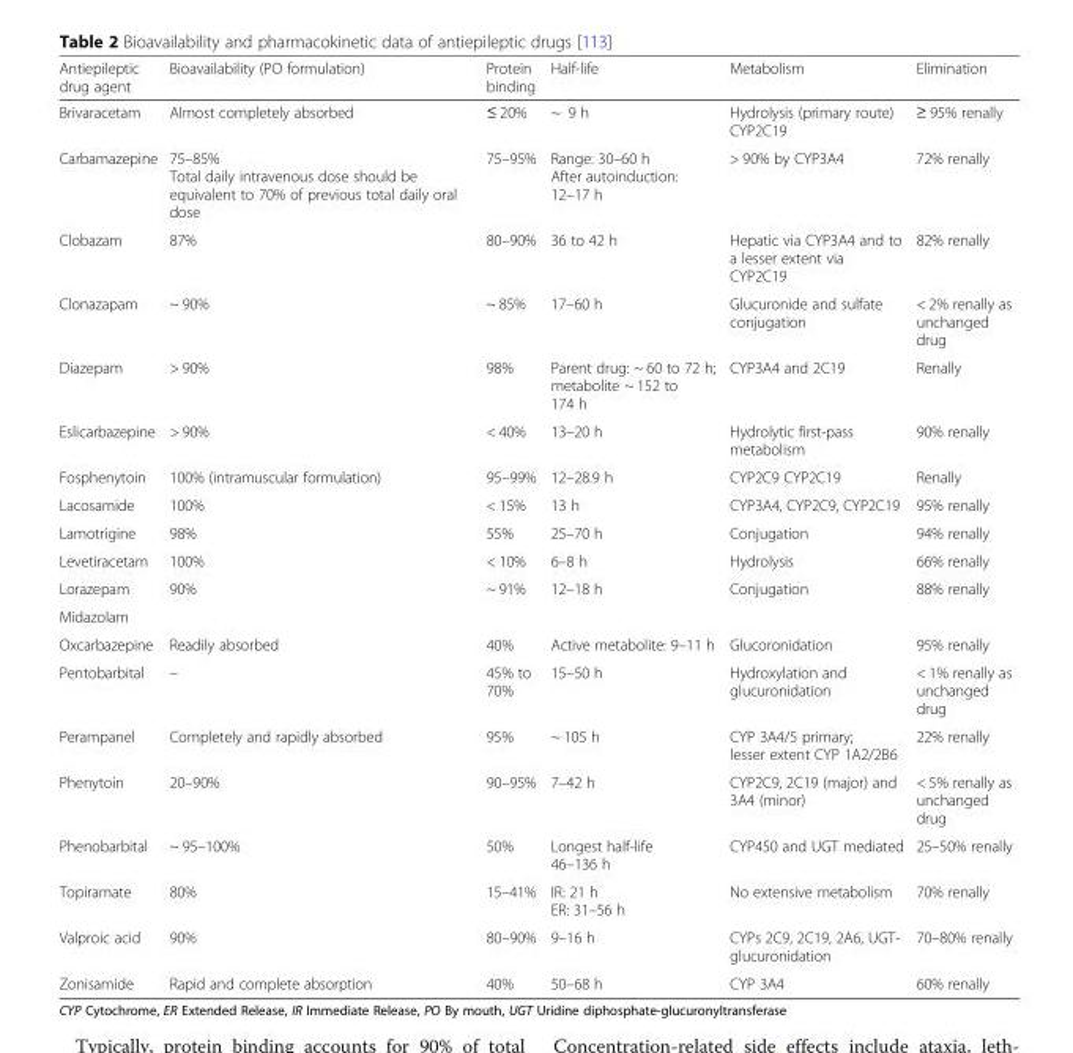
<table><thead><tr><td>Antiepileptic drug agent</td><td>Bioavailability (PO formulation)</td><td>Protein binding</td><td>Half-life</td><td>Metabolism</td><td>Elimination</td></tr></thead><tbody><tr><td>Brivaracetam</td><td>Almost completely absorbed</td><td>≤ 20%</td><td>~ 9 h</td><td>Hydrolysis (primary route) CYP2C19</td><td>≥ 95% renally</td></tr><tr><td>Carbamazepine</td><td>75–85% Total daily intravenous dose should be equivalent to 70% of previous total daily oral dose</td><td>75–95%</td><td>Range: 30–60 h After autoinduction: 12–17 h</td><td>&gt; 90% by CYP3A4</td><td>72% renally</td></tr><tr><td>Clobazam</td><td>87%</td><td>80–90%</td><td>36 to 42 h</td><td>Hepatic via CYP3A4 and to a lesser extent via CYP2C19</td><td>82% renally</td></tr><tr><td>Clonazapam</td><td>~ 90%</td><td>~ 85%</td><td>17–60 h</td><td>Glucuronide and sulfate conjugation</td><td>&lt; 2% renally as unchanged drug</td></tr><tr><td>Diazepam</td><td>&gt; 90%</td><td>98%</td><td>Parent drug: ~ 60 to 72 h; metabolite ~ 152 to 174 h</td><td>CYP3A4 and 2C19</td><td>Renally</td></tr><tr><td>Eslicarbazepine</td><td>&gt; 90%</td><td>&lt; 40%</td><td>13–20 h</td><td>Hydrolytic first-pass metabolism</td><td>90% renally</td></tr><tr><td>Fosphenytoin</td><td>100% (intramuscular formulation)</td><td>95–99%</td><td>12–28.9 h</td><td>CYP2C9 CYP2C19</td><td>Renally</td></tr><tr><td>Lacosamide</td><td>100%</td><td>&lt; 15%</td><td>13 h</td><td>CYP3A4, CYP2C9, CYP2C19</td><td>95% renally</td></tr><tr><td>Lamotrigine</td><td>98%</td><td>55%</td><td>25–70 h</td><td>Conjugation</td><td>94% renally</td></tr><tr><td>Levetiracetam</td><td>100%</td><td>&lt; 10%</td><td>6–8 h</td><td>Hydrolysis</td><td>66% renally</td></tr><tr><td>Lorazepam</td><td>90%</td><td>~ 91%</td><td>12–18 h</td><td>Conjugation</td><td>88% renally</td></tr><tr><td colspan="6">Midazolam</td></tr><tr><td>Oxcarbazepine</td><td>Readily absorbed</td><td>40%</td><td>Active metabolite: 9–11 h</td><td>Glucoronidation</td><td>95% renally</td></tr><tr><td>Pentobarbital</td><td>–</td><td>45% to 70%</td><td>15–50 h</td><td>Hydroxylation and glucuronidation</td><td>&lt; 1% renally as unchanged drug</td></tr><tr><td>Perampanel</td><td>Completely and rapidly absorbed</td><td>95%</td><td>~ 105 h</td><td>CYP 3A4/5 primary; lesser extent CYP 1A2/2B6</td><td>22% renally</td></tr><tr><td>Phenytoin</td><td>20–90%</td><td>90–95%</td><td>7–42 h</td><td>CYP2C9, 2C19 (major) and 3A4 (minor)</td><td>&lt; 5% renally as unchanged drug</td></tr><tr><td>Phenobarbital</td><td>~ 95–100%</td><td>50%</td><td>Longest half-life 46–136 h</td><td>CYP450 and UGT mediated</td><td>25–50% renally</td></tr><tr><td>Topiramate</td><td>80%</td><td>15–41%</td><td>IR: 21 h ER: 31–56 h</td><td>No extensive metabolism</td><td>70% renally</td></tr><tr><td>Valproic acid</td><td>90%</td><td>80–90%</td><td>9–16 h</td><td>CYPs 2C9, 2C19, 2A6, UGT- glucuronidation</td><td>70–80% renally</td></tr><tr><td>Zonisamide</td><td>Rapid and complete absorption</td><td>40%</td><td>50–68 h</td><td>CYP 3A4</td><td>60% renally</td></tr></tbody></table>